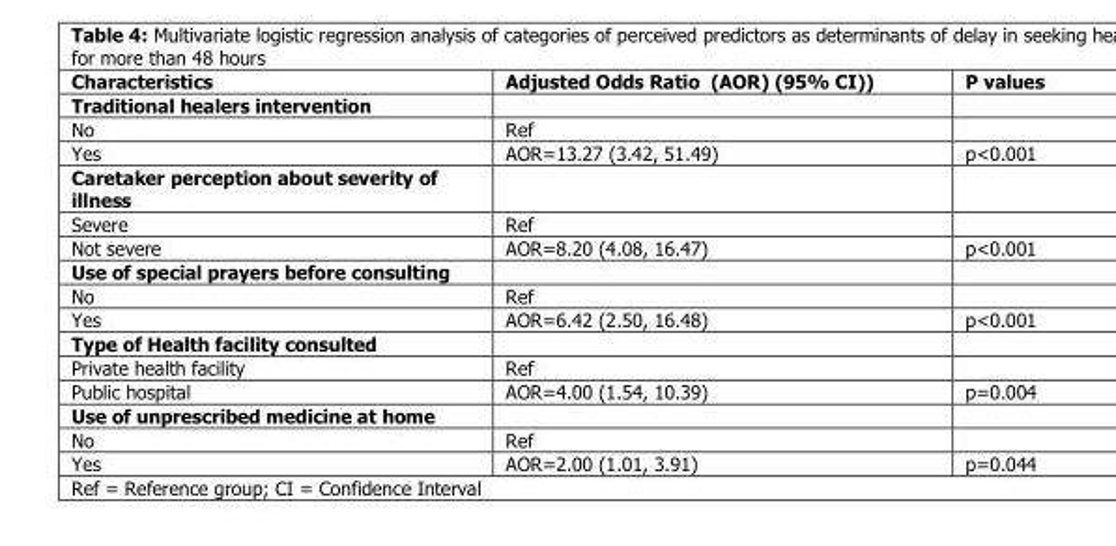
<table><thead><tr><td>Characteristics</td><td>Adjusted Odds Ratio (AOR) (95% CI))</td><td>P values</td></tr></thead><tbody><tr><td colspan="3">Traditional healers intervention</td></tr><tr><td>No</td><td>Ref</td><td></td></tr><tr><td>Yes</td><td>AOR=13.27 (3.42, 51.49)</td><td>p&lt;0.001</td></tr><tr><td colspan="3">Caretaker perception about severity of illness</td></tr><tr><td>Severe</td><td>Ref</td><td></td></tr><tr><td>Not severe</td><td>AOR=8.20 (4.08, 16.47)</td><td>p&lt;0.001</td></tr><tr><td colspan="3">Use of special prayers before consulting</td></tr><tr><td>No</td><td>Ref</td><td></td></tr><tr><td>Yes</td><td>AOR=6.42 (2.50, 16.48)</td><td>p&lt;0.001</td></tr><tr><td colspan="3">Type of Health facility consulted</td></tr><tr><td>Private health facility</td><td>Ref</td><td></td></tr><tr><td>Public hospital</td><td>AOR=4.00 (1.54, 10.39)</td><td>p=0.004</td></tr><tr><td colspan="3">Use of unprescribed medicine at home</td></tr><tr><td>No</td><td>Ref</td><td></td></tr><tr><td>Yes</td><td>AOR=2.00 (1.01, 3.91)</td><td>p=0.044</td></tr></tbody></table>